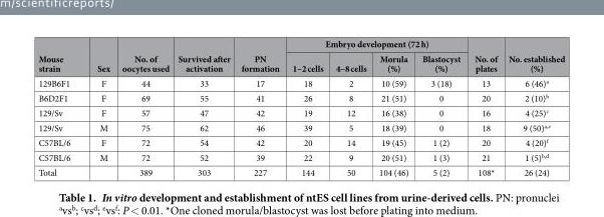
<table><thead><tr><td rowspan="2">Mouse strain</td><td rowspan="2">Sex</td><td rowspan="2">No. of oocytes used</td><td rowspan="2">Survived after activation</td><td rowspan="2">PN formation</td><td colspan="4">Embryo development (72 h)</td><td rowspan="2">No. of plates</td><td rowspan="2">No. established (%)</td></tr><tr><td>1–2 cells</td><td>4–8 cells</td><td>Morula (%)</td><td>Blastocyst (%)</td></tr></thead><tbody><tr><td>129B6F1</td><td>F</td><td>44</td><td>33</td><td>17</td><td>18</td><td>2</td><td>10 (59)</td><td>3 (18)</td><td>13</td><td>6 (46)<sup>a</sup></td></tr><tr><td>B6D2F1</td><td>F</td><td>69</td><td>55</td><td>41</td><td>26</td><td>8</td><td>21 (51)</td><td>0</td><td>20</td><td>2 (10)<sup>b</sup></td></tr><tr><td>129/Sv</td><td>F</td><td>57</td><td>47</td><td>42</td><td>19</td><td>12</td><td>16 (38)</td><td>0</td><td>16</td><td>4 (25)<sup>c</sup></td></tr><tr><td>129/Sv</td><td>M</td><td>75</td><td>62</td><td>46</td><td>39</td><td>5</td><td>18 (39)</td><td>0</td><td>18</td><td>9 (50)<sup>a,e</sup></td></tr><tr><td>C57BL/6</td><td>F</td><td>72</td><td>54</td><td>42</td><td>20</td><td>14</td><td>19 (45)</td><td>1 (2)</td><td>20</td><td>4 (20)<sup>f</sup></td></tr><tr><td>C57BL/6</td><td>M</td><td>72</td><td>52</td><td>39</td><td>22</td><td>9</td><td>20 (51)</td><td>1 (3)</td><td>21</td><td>1 (5)<sup>b,d</sup></td></tr><tr><td>Total</td><td></td><td>389</td><td>303</td><td>227</td><td>144</td><td>50</td><td>104 (46)</td><td>5 (2)</td><td>108*</td><td>26 (24)</td></tr></tbody></table>